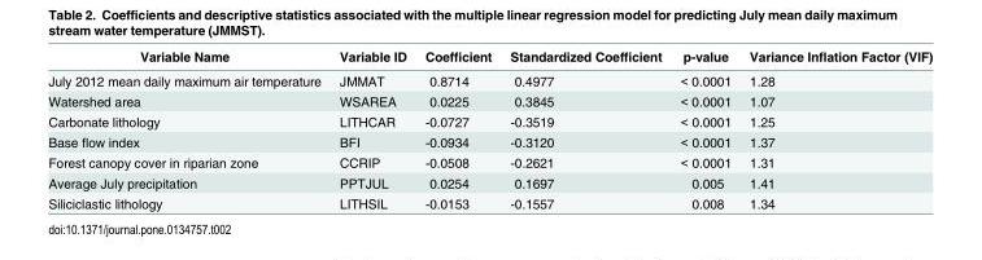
<table><thead><tr><td>Variable Name</td><td>Variable ID</td><td>Coefficient</td><td>Standardized Coefficient</td><td>p-value</td><td>Variance Inflation Factor (VIF)</td></tr></thead><tbody><tr><td>July 2012 mean daily maximum air temperature</td><td>JMMAT</td><td>0.8714</td><td>0.4977</td><td>&lt; 0.0001</td><td>1.28</td></tr><tr><td>Watershed area</td><td>WSAREA</td><td>0.0225</td><td>0.3845</td><td>&lt; 0.0001</td><td>1.07</td></tr><tr><td>Carbonate lithology</td><td>LITHCAR</td><td>-0.0727</td><td>-0.3519</td><td>&lt; 0.0001</td><td>1.25</td></tr><tr><td>Base flow index</td><td>BFI</td><td>-0.0934</td><td>-0.3120</td><td>&lt; 0.0001</td><td>1.37</td></tr><tr><td>Forest canopy cover in riparian zone</td><td>CCRIP</td><td>-0.0508</td><td>-0.2621</td><td>&lt; 0.0001</td><td>1.31</td></tr><tr><td>Average July precipitation</td><td>PPTJUL</td><td>0.0254</td><td>0.1697</td><td>0.005</td><td>1.41</td></tr><tr><td>Siliciclastic lithology</td><td>LITHSIL</td><td>-0.0153</td><td>-0.1557</td><td>0.008</td><td>1.34</td></tr></tbody></table>